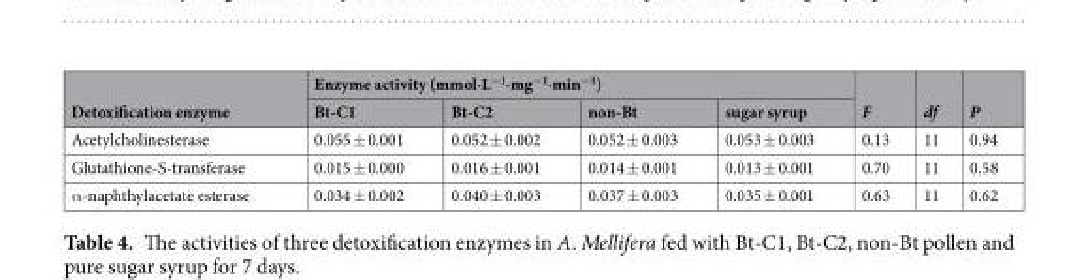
<table><thead><tr><td rowspan="2">Detoxification enzyme</td><td colspan="4">Enzyme activity (mmol·L<sup>−1</sup>·mg<sup>−1</sup>·min<sup>−1</sup>)</td><td rowspan="2">F</td><td rowspan="2">df</td><td rowspan="2">P</td></tr><tr><td>Bt-C1</td><td>Bt-C2</td><td>non-Bt</td><td>sugar syrup</td></tr></thead><tbody><tr><td>Acetylcholinesterase</td><td>0.055 ± 0.001</td><td>0.052 ± 0.002</td><td>0.052 ± 0.003</td><td>0.053 ± 0.003</td><td>0.13</td><td>11</td><td>0.94</td></tr><tr><td>Glutathione-S-transferase</td><td>0.015 ± 0.000</td><td>0.016 ± 0.001</td><td>0.014 ± 0.001</td><td>0.013 ± 0.001</td><td>0.70</td><td>11</td><td>0.58</td></tr><tr><td>α-naphthylacetate esterase</td><td>0.034 ± 0.002</td><td>0.040 ± 0.003</td><td>0.037 ± 0.003</td><td>0.035 ± 0.001</td><td>0.63</td><td>11</td><td>0.62</td></tr></tbody></table>